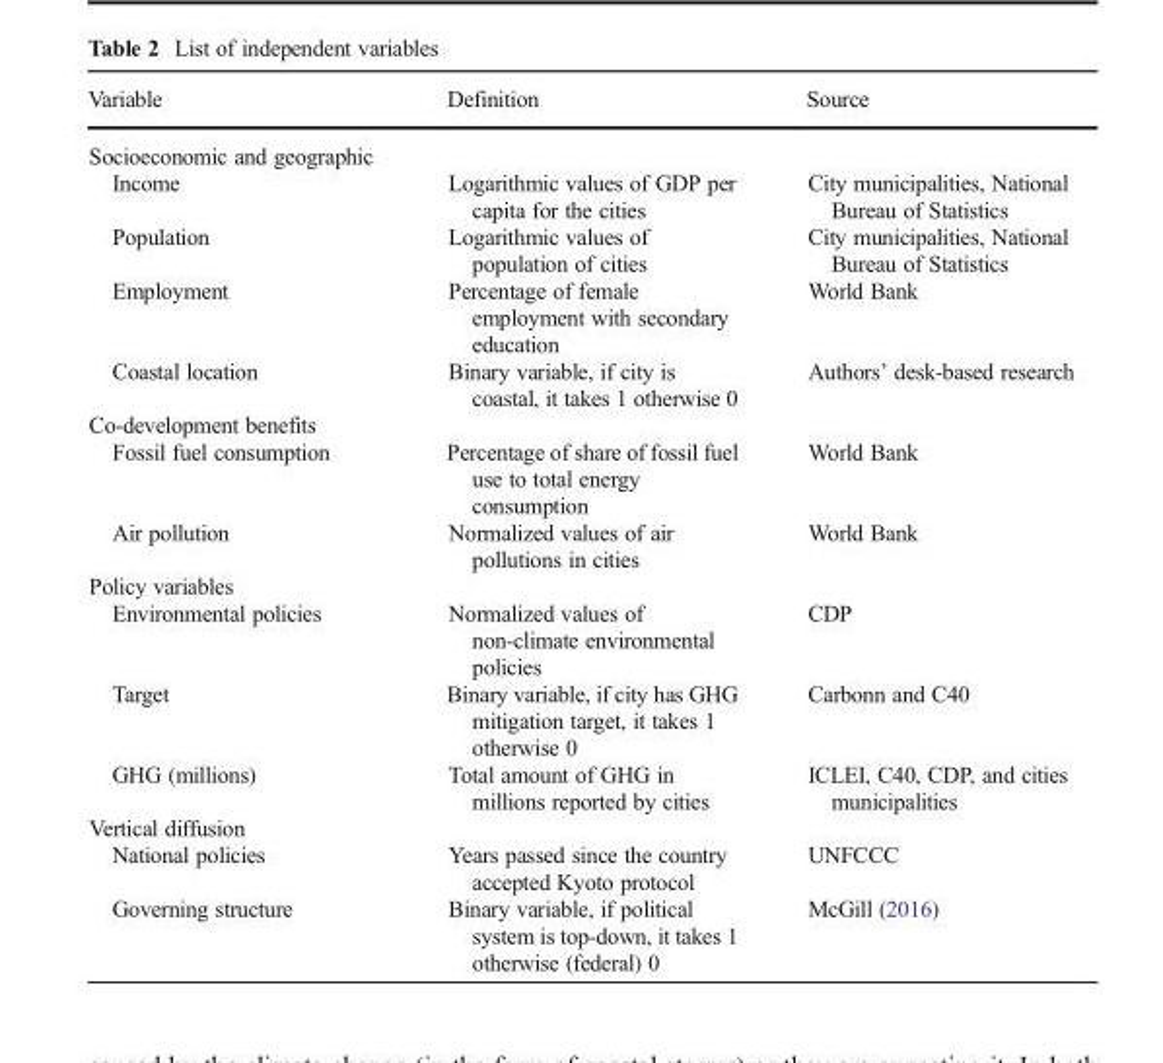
<table><thead><tr><td>Variable</td><td>Definition</td><td>Source</td></tr></thead><tbody><tr><td colspan="3">Socioeconomic and geographic</td></tr><tr><td>Income</td><td>Logarithmic values of GDP per capita for the cities</td><td>City municipalities, National Bureau of Statistics</td></tr><tr><td>Population</td><td>Logarithmic values of population of cities</td><td>City municipalities, National Bureau of Statistics</td></tr><tr><td>Employment</td><td>Percentage of female employment with secondary education</td><td>World Bank</td></tr><tr><td>Coastal location</td><td>Binary variable, if city is coastal, it takes 1 otherwise 0</td><td>Authors’ desk-based research</td></tr><tr><td colspan="3">Co-development benefits</td></tr><tr><td>Fossil fuel consumption</td><td>Percentage of share of fossil fuel use to total energy consumption</td><td>World Bank</td></tr><tr><td>Air pollution</td><td>Normalized values of air pollutions in cities</td><td>World Bank</td></tr><tr><td colspan="3">Policy variables</td></tr><tr><td>Environmental policies</td><td>Normalized values of non-climate environmental policies</td><td>CDP</td></tr><tr><td>Target</td><td>Binary variable, if city has GHG mitigation target, it takes 1 otherwise 0</td><td>Carbonn and C40</td></tr><tr><td>GHG (millions)</td><td>Total amount of GHG in millions reported by cities</td><td>ICLEI, C40, CDP, and cities municipalities</td></tr><tr><td colspan="3">Vertical diffusion</td></tr><tr><td>National policies</td><td>Years passed since the country accepted Kyoto protocol</td><td>UNFCCC</td></tr><tr><td>Governing structure</td><td>Binary variable, if political system is top-down, it takes 1 otherwise (federal) 0</td><td>McGill (2016)</td></tr></tbody></table>